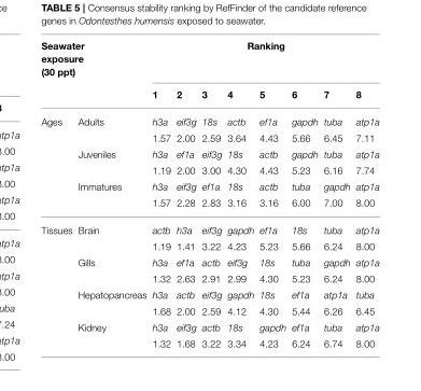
<table><thead><tr><td colspan="2">Seawater exposure (30 ppt)</td><td colspan="8">Ranking</td></tr><tr><td></td><td></td><td>1</td><td>2</td><td>3</td><td>4</td><td>5</td><td>6</td><td>7</td><td>8</td></tr></thead><tbody><tr><td rowspan="6">Ages</td><td>Adults</td><td>h3a</td><td>eif3g</td><td>18s</td><td>actb</td><td>ef1a</td><td>gapdh</td><td>tuba</td><td>atp1a</td></tr><tr><td></td><td>1.57</td><td>2.00</td><td>2.59</td><td>3.64</td><td>4.43</td><td>5.66</td><td>6.45</td><td>7.11</td></tr><tr><td>Juveniles</td><td>h3a</td><td>ef1a</td><td>eif3g</td><td>18s</td><td>actb</td><td>gapdh</td><td>tuba</td><td>atp1a</td></tr><tr><td></td><td>1.19</td><td>2.00</td><td>3.00</td><td>4.30</td><td>4.43</td><td>5.23</td><td>6.16</td><td>7.74</td></tr><tr><td>Immatures</td><td>h3a</td><td>eif3g</td><td>ef1a</td><td>18s</td><td>actb</td><td>tuba</td><td>gapdh</td><td>atp1a</td></tr><tr><td></td><td>1.57</td><td>2.28</td><td>2.83</td><td>3.16</td><td>3.16</td><td>6.00</td><td>7.00</td><td>8.00</td></tr><tr><td rowspan="8">Tissues</td><td>Brain</td><td>actb</td><td>h3a</td><td>eif3g</td><td>gapdh</td><td>ef1a</td><td>18s</td><td>tuba</td><td>atp1a</td></tr><tr><td></td><td>1.19</td><td>1.41</td><td>3.22</td><td>4.23</td><td>5.23</td><td>5.66</td><td>6.24</td><td>8.00</td></tr><tr><td>Gills</td><td>h3a</td><td>ef1a</td><td>actb</td><td>eif3g</td><td>18s</td><td>tuba</td><td>gapdh</td><td>atp1a</td></tr><tr><td></td><td>1.32</td><td>2.63</td><td>2.91</td><td>2.99</td><td>4.30</td><td>5.23</td><td>6.24</td><td>8.00</td></tr><tr><td>Hepatopancreas</td><td>h3a</td><td>actb</td><td>eif3g</td><td>gapdh</td><td>18s</td><td>ef1a</td><td>atp1a</td><td>tuba</td></tr><tr><td></td><td>1.68</td><td>2.00</td><td>2.59</td><td>4.12</td><td>4.30</td><td>5.44</td><td>6.26</td><td>6.45</td></tr><tr><td>Kidney</td><td>h3a</td><td>eif3g</td><td>actb</td><td>18s</td><td>gapdh</td><td>ef1a</td><td>tuba</td><td>atp1a</td></tr><tr><td></td><td>1.32</td><td>1.68</td><td>3.22</td><td>3.34</td><td>4.23</td><td>6.24</td><td>6.74</td><td>8.00</td></tr></tbody></table>